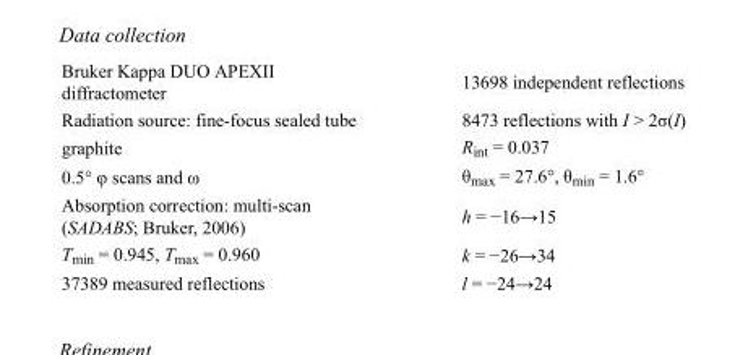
<table><tbody><tr><td>Bruker Kappa DUO APEXII diffractometer</td><td>13698 independent reflections</td></tr><tr><td>Radiation source: fine-focus sealed tube</td><td>8473 reflections with I &gt; 2σ(I)</td></tr><tr><td>graphite</td><td>R<sub>int</sub> = 0.037</td></tr><tr><td>0.5° φ scans and ω</td><td>θ<sub>max</sub> = 27.6°, θ<sub>min</sub> = 1.6°</td></tr><tr><td>Absorption correction: multi-scan (SADABS; Bruker, 2006)</td><td>h = −16→15</td></tr><tr><td>T<sub>min</sub> = 0.945, T<sub>max</sub> = 0.960</td><td>k = −26→34</td></tr><tr><td>37389 measured reflections</td><td>l = −24→24</td></tr></tbody></table>